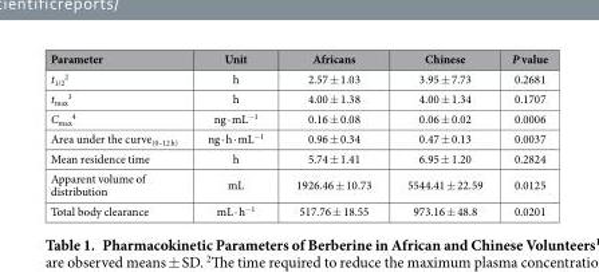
<table><thead><tr><td>Parameter</td><td>Unit</td><td>Africans</td><td>Chinese</td><td>P value</td></tr></thead><tbody><tr><td>t<sub>1/2</sub> <sup>2</sup></td><td>h</td><td>2.57 ± 1.03</td><td>3.95 ± 7.73</td><td>0.2681</td></tr><tr><td>t<sub>max</sub> <sup>3</sup></td><td>h</td><td>4.00 ± 1.38</td><td>4.00 ± 1.34</td><td>0.1707</td></tr><tr><td>C<sub>max</sub> <sup>4</sup></td><td>ng · mL<sup>−1</sup></td><td>0.16 ± 0.08</td><td>0.06 ± 0.02</td><td>0.0006</td></tr><tr><td>Area under the curve<sub>(0–12 h)</sub></td><td>ng · h · mL<sup>−1</sup></td><td>0.96 ± 0.34</td><td>0.47 ± 0.13</td><td>0.0037</td></tr><tr><td>Mean residence time</td><td>h</td><td>5.74 ± 1.41</td><td>6.95 ± 1.20</td><td>0.2824</td></tr><tr><td>Apparent volume of distribution</td><td>mL</td><td>1926.46 ± 10.73</td><td>5544.41 ± 22.59</td><td>0.0125</td></tr><tr><td>Total body clearance</td><td>mL · h<sup>−1</sup></td><td>517.76 ± 18.55</td><td>973.16 ± 48.8</td><td>0.0201</td></tr></tbody></table>